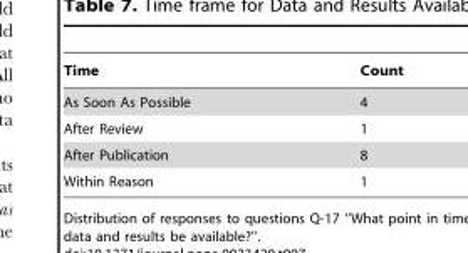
<table><thead><tr><td>Time</td><td>Count</td></tr></thead><tbody><tr><td>As Soon As Possible</td><td>4</td></tr><tr><td>After Review</td><td>1</td></tr><tr><td>After Publication</td><td>8</td></tr><tr><td>Within Reason</td><td>1</td></tr></tbody></table>